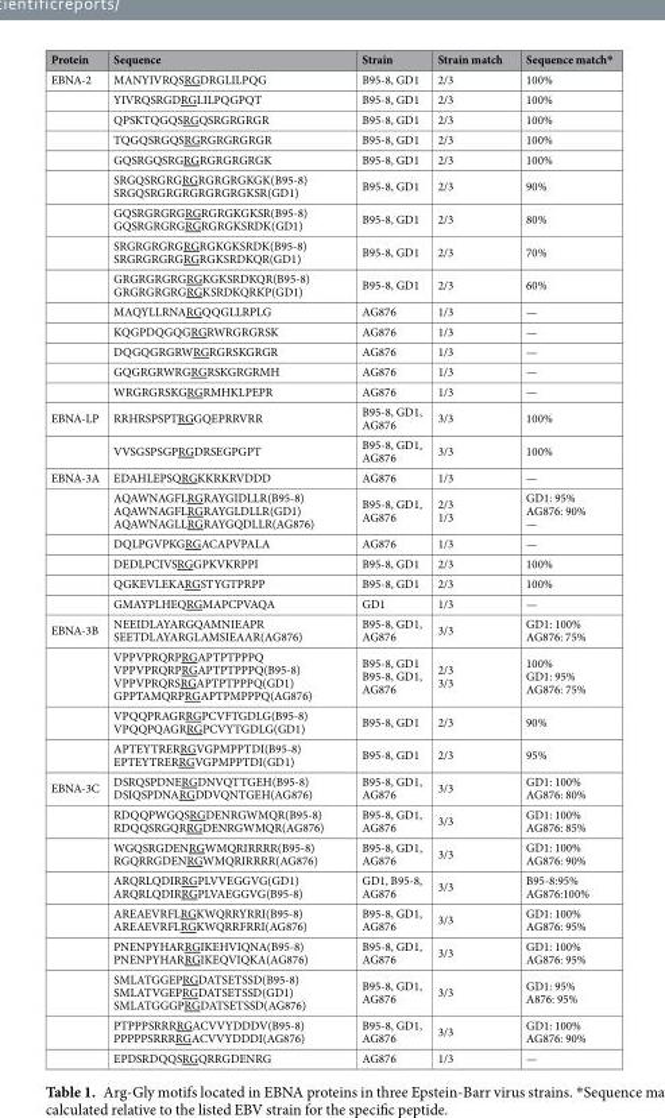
<table><thead><tr><td>Protein</td><td>Sequence</td><td>Strain</td><td>Strain match</td><td>Sequence match*</td></tr></thead><tbody><tr><td rowspan="14">EBNA-2</td><td>MANYIVRQSRGDRGLILPQG</td><td>B95-8, GD1</td><td>2/3</td><td>100%</td></tr><tr><td>YIVRQSRGDRGLILPQGPQT</td><td>B95-8, GD1</td><td>2/3</td><td>100%</td></tr><tr><td>QPSKTQGQSRGQSRGRGRGR</td><td>B95-8, GD1</td><td>2/3</td><td>100%</td></tr><tr><td>TQGQSRGQSRGRGRGRGRGR</td><td>B95-8, GD1</td><td>2/3</td><td>100%</td></tr><tr><td>GQSRGQSRGRGRGRGRGRGK</td><td>B95-8, GD1</td><td>2/3</td><td>100%</td></tr><tr><td>SRGQSRGRGRGRGRGRGKGK(B95-8) SRGQSRGRGRGRGRGRGKSR(GD1)</td><td>B95-8, GD1</td><td>2/3</td><td>90%</td></tr><tr><td>GQSRGRGRGRGRGRGKGKSR(B95-8) GQSRGRGRGRGRGRGKSRDK(GD1)</td><td>B95-8, GD1</td><td>2/3</td><td>80%</td></tr><tr><td>SRGRGRGRGRGRGKGKSRDK(B95-8) SRGRGRGRGRGRGKSRDKQR(GD1)</td><td>B95-8, GD1</td><td>2/3</td><td>70%</td></tr><tr><td>GRGRGRGRGRGKGKSRDKQR(B95-8) GRGRGRGRGRGKSRDKQRKP(GD1)</td><td>B95-8, GD1</td><td>2/3</td><td>60%</td></tr><tr><td>MAQYLLRNARGQQGLLRPLG</td><td>AG876</td><td>1/3</td><td>—</td></tr><tr><td>KQGPDQGQGRGRWRGRGRSK</td><td>AG876</td><td>1/3</td><td>—</td></tr><tr><td>DQGQGRGRWRGRGRSKGRGR</td><td>AG876</td><td>1/3</td><td>—</td></tr><tr><td>GQGRGRWRGRGRSKGRGRMH</td><td>AG876</td><td>1/3</td><td>—</td></tr><tr><td>WRGRGRSKGRGRMHKLPEPR</td><td>AG876</td><td>1/3</td><td>—</td></tr><tr><td rowspan="2">EBNA-LP</td><td>RRHRSPSPTRGGQEPRRVRR</td><td>B95-8, GD1, AG876</td><td>3/3</td><td>100%</td></tr><tr><td>VVSGSPSGPRGDRSEGPGPT</td><td>B95-8, GD1, AG876</td><td>3/3</td><td>100%</td></tr><tr><td rowspan="6">EBNA-3A</td><td>EDAHLEPSQRGKKRKRVDDD</td><td>AG876</td><td>1/3</td><td>—</td></tr><tr><td>AQAWNAGFLRGRAYGIDLLR(B95-8) AQAWNAGFLRGRAYGLDLLR(GD1) AQAWNAGLLRGRAYGQDLLR(AG876)</td><td>B95-8, GD1, AG876</td><td>2/3 1/3</td><td>GD1: 95% AG876: 90% —</td></tr><tr><td>DQLPGVPKGRGACAPVPALA</td><td>AG876</td><td>1/3</td><td>—</td></tr><tr><td>DEDLPCIVSRGGPKVKRPPI</td><td>B95-8, GD1</td><td>2/3</td><td>100%</td></tr><tr><td>QGKEVLEKARGSTYGTPRPP</td><td>B95-8, GD1</td><td>2/3</td><td>100%</td></tr><tr><td>GMAYPLHEQRGMAPCPVAQA</td><td>GD1</td><td>1/3</td><td>—</td></tr><tr><td rowspan="4">EBNA-3B</td><td>NEEIDLAYARGQAMNIEAPR SEETDLAYARGLAMSIEAAR(AG876)</td><td>B95-8, GD1, AG876</td><td>3/3</td><td>GD1: 100% AG876: 75%</td></tr><tr><td>VPPVPRQRPRGAPTPTPPPQ VPPVPRQRPRGAPTPTPPPQ(B95-8) VPPVPRQRSRGAPTPTPPPQ(GD1) GPPTAMQRPRGAPTPMPPPQ(AG876)</td><td>B95-8, GD1 B95-8, GD1, AG876</td><td>2/3 3/3</td><td>100% GD1: 95% AG876: 75%</td></tr><tr><td>VPQQPRAGRRGPCVFTGDLG(B95-8) VPQQPQAGRRGPCVYTGDLG(GD1)</td><td>B95-8, GD1</td><td>2/3</td><td>90%</td></tr><tr><td>APTEYTRERRGVGPMPPTDI(B95-8) EPTEYTRERRGVGPMPPTDI(GD1)</td><td>B95-8, GD1</td><td>2/3</td><td>95%</td></tr><tr><td rowspan="9">EBNA-3C</td><td>DSRQSPDNERGDNVQTTGEH(B95-8) DSIQSPDNARGDDVQNTGEH(AG876)</td><td>B95-8, GD1, AG876</td><td>3/3</td><td>GD1: 100% AG876: 80%</td></tr><tr><td>RDQQPWGQSRGDENRGWMQR(B95-8) RDQQSRGQRRGDENRGWMQR(AG876)</td><td>B95-8, GD1, AG876</td><td>3/3</td><td>GD1: 100% AG876: 85%</td></tr><tr><td>WGQSRGDENRGWMQRIRRRR(B95-8) RGQRRGDENRGWMQRIRRRR(AG876)</td><td>B95-8, GD1, AG876</td><td>3/3</td><td>GD1: 100% AG876: 90%</td></tr><tr><td>ARQRLQDIRRGPLVVEGGVG(GD1) ARQRLQDIRRGPLVAEGGVG(B95-8)</td><td>GD1, B95-8, AG876</td><td>3/3</td><td>B95-8:95% AG876:100%</td></tr><tr><td>AREAEVRFLRGKWQRRYRRI(B95-8) AREAEVRFLRGKWQRRFRRI(AG876)</td><td>B95-8, GD1, AG876</td><td>3/3</td><td>GD1: 100% AG876: 95%</td></tr><tr><td>PNENPYHARRGIKEHVIQNA(B95-8) PNENPYHARRGIKEQVIQKA(AG876)</td><td>B95-8, GD1, AG876</td><td>3/3</td><td>GD1: 100% AG876: 95%</td></tr><tr><td>SMLATGGEPRGDATSETSSD(B95-8) SMLATVGEPRGDATSETSSD(GD1) SMLATGGGPRGDATSETSSD(AG876)</td><td>B95-8, GD1, AG876</td><td>3/3</td><td>GD1: 95% A876: 95%</td></tr><tr><td>PTPPPSRRRRGACVVYDDDV(B95-8) PPPPPSRRRRGACVVYDDDI(AG876)</td><td>B95-8, GD1, AG876</td><td>3/3</td><td>GD1: 100% AG876: 90%</td></tr><tr><td>EPDSRDQQSRGQRRGDENRG</td><td>AG876</td><td>1/3</td><td>—</td></tr></tbody></table>